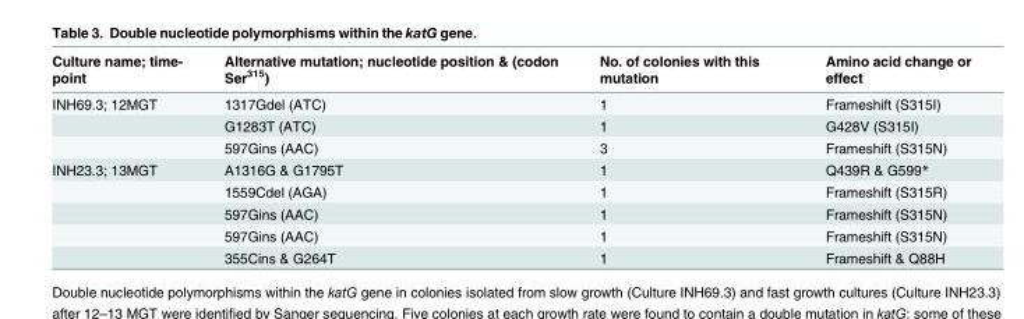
<table><thead><tr><td>Culture name; time- point</td><td>Alternative mutation; nucleotide position &amp; (codon Ser<sup>315</sup>)</td><td>No. of colonies with this mutation</td><td>Amino acid change or effect</td></tr></thead><tbody><tr><td rowspan="3">INH69.3; 12MGT</td><td>1317Gdel (ATC)</td><td>1</td><td>Frameshift (S315I)</td></tr><tr><td>G1283T (ATC)</td><td>1</td><td>G428V (S315I)</td></tr><tr><td>597Gins (AAC)</td><td>3</td><td>Frameshift (S315N)</td></tr><tr><td rowspan="5">INH23.3; 13MGT</td><td>A1316G &amp; G1795T</td><td>1</td><td>Q439R &amp; G599*</td></tr><tr><td>1559Cdel (AGA)</td><td>1</td><td>Frameshift (S315R)</td></tr><tr><td>597Gins (AAC)</td><td>1</td><td>Frameshift (S315N)</td></tr><tr><td>597Gins (AAC)</td><td>1</td><td>Frameshift (S315N)</td></tr><tr><td>355Cins &amp; G264T</td><td>1</td><td>Frameshift &amp; Q88H</td></tr></tbody></table>